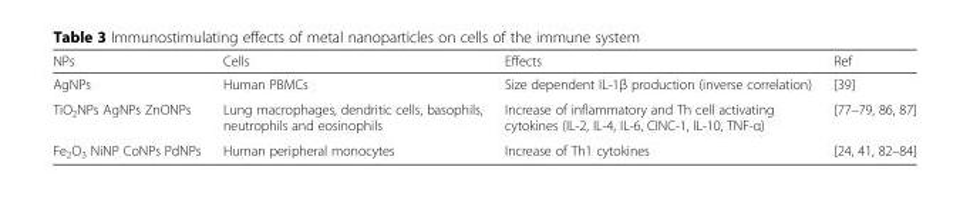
<table><thead><tr><td>NPs</td><td>Cells</td><td>Effects</td><td>Ref</td></tr></thead><tbody><tr><td>AgNPs</td><td>Human PBMCs</td><td>Size dependent IL-1β production (inverse correlation)</td><td>[39]</td></tr><tr><td>TiO<sub>2</sub>NPs AgNPs ZnONPs</td><td>Lung macrophages, dendritic cells, basophils, neutrophils and eosinophils</td><td>Increase of inflammatory and Th cell activating cytokines (IL-2, IL-4, IL-6, CINC-1, IL-10, TNF-α)</td><td>[77–79, 86, 87]</td></tr><tr><td>Fe<sub>2</sub>O<sub>3</sub> NiNP CoNPs PdNPs</td><td>Human peripheral monocytes</td><td>Increase of Th1 cytokines</td><td>[24, 41, 82–84]</td></tr></tbody></table>